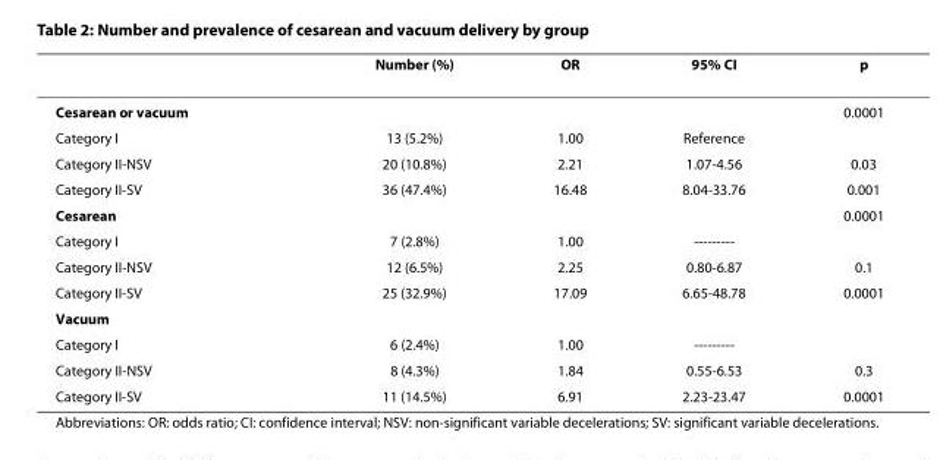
<table><thead><tr><td></td><td>Number (%)</td><td>OR</td><td>95% CI</td><td>p</td></tr></thead><tbody><tr><td>Cesarean or vacuum</td><td></td><td></td><td></td><td>0.0001</td></tr><tr><td>Category I</td><td>13 (5.2%)</td><td>1.00</td><td>Reference</td><td></td></tr><tr><td>Category II-NSV</td><td>20 (10.8%)</td><td>2.21</td><td>1.07-4.56</td><td>0.03</td></tr><tr><td>Category II-SV</td><td>36 (47.4%)</td><td>16.48</td><td>8.04-33.76</td><td>0.001</td></tr><tr><td>Cesarean</td><td></td><td></td><td></td><td>0.0001</td></tr><tr><td>Category I</td><td>7 (2.8%)</td><td>1.00</td><td>---------</td><td></td></tr><tr><td>Category II-NSV</td><td>12 (6.5%)</td><td>2.25</td><td>0.80-6.87</td><td>0.1</td></tr><tr><td>Category II-SV</td><td>25 (32.9%)</td><td>17.09</td><td>6.65-48.78</td><td>0.0001</td></tr><tr><td colspan="5">Vacuum</td></tr><tr><td>Category I</td><td>6 (2.4%)</td><td>1.00</td><td>---------</td><td></td></tr><tr><td>Category II-NSV</td><td>8 (4.3%)</td><td>1.84</td><td>0.55-6.53</td><td>0.3</td></tr><tr><td>Category II-SV</td><td>11 (14.5%)</td><td>6.91</td><td>2.23-23.47</td><td>0.0001</td></tr></tbody></table>